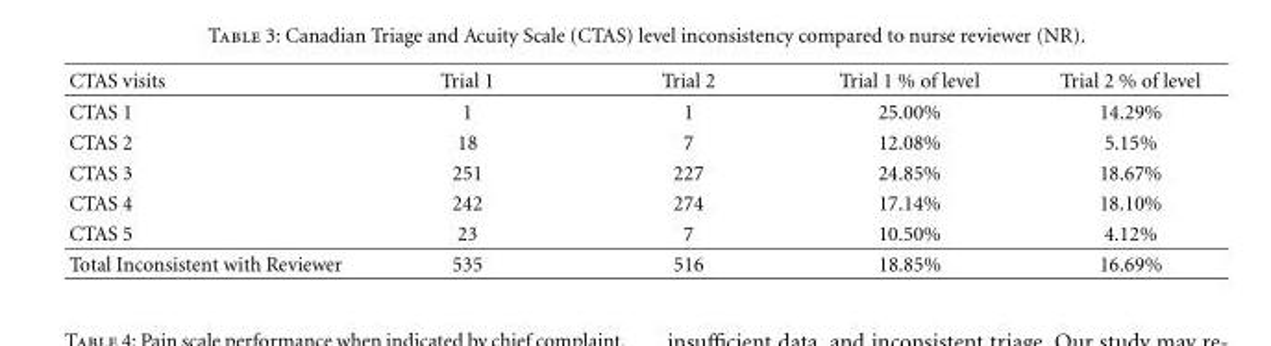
<table><thead><tr><td>CTAS visits</td><td>Trial 1</td><td>Trial 2</td><td>Trial 1 % of level</td><td>Trial 2 % of level</td></tr></thead><tbody><tr><td>CTAS 1</td><td>1</td><td>1</td><td>25.00%</td><td>14.29%</td></tr><tr><td>CTAS 2</td><td>18</td><td>7</td><td>12.08%</td><td>5.15%</td></tr><tr><td>CTAS 3</td><td>251</td><td>227</td><td>24.85%</td><td>18.67%</td></tr><tr><td>CTAS 4</td><td>242</td><td>274</td><td>17.14%</td><td>18.10%</td></tr><tr><td>CTAS 5</td><td>23</td><td>7</td><td>10.50%</td><td>4.12%</td></tr><tr><td>Total Inconsistent with Reviewer</td><td>535</td><td>516</td><td>18.85%</td><td>16.69%</td></tr></tbody></table>